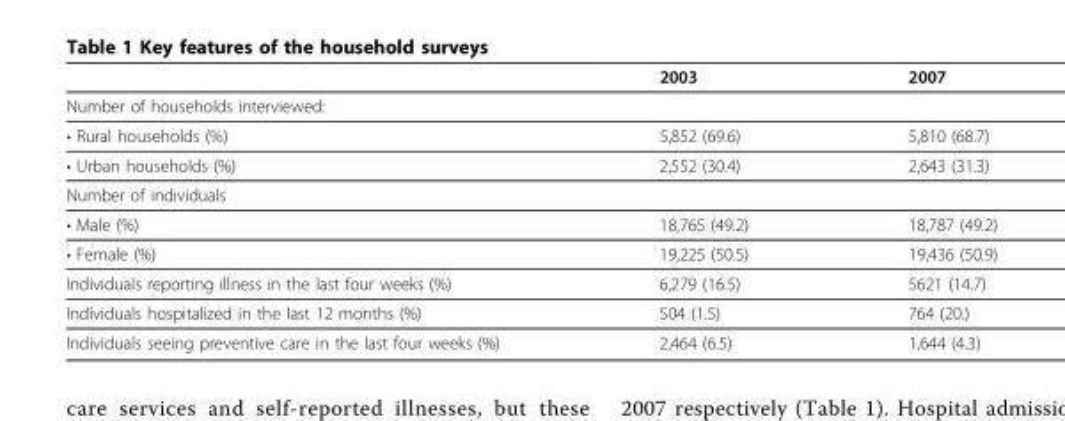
<table><thead><tr><td></td><td>2003</td><td>2007</td></tr></thead><tbody><tr><td colspan="3">Number of households interviewed:</td></tr><tr><td>• Rural households (%)</td><td>5,852 (69.6)</td><td>5,810 (68.7)</td></tr><tr><td>• Urban households (%)</td><td>2,552 (30.4)</td><td>2,643 (31.3)</td></tr><tr><td colspan="3">Number of individuals</td></tr><tr><td>• Male (%)</td><td>18,765 (49.2)</td><td>18,787 (49.2)</td></tr><tr><td>• Female (%)</td><td>19,225 (50.5)</td><td>19,436 (50.9)</td></tr><tr><td>Individuals reporting illness in the last four weeks (%)</td><td>6,279 (16.5)</td><td>5621 (14.7)</td></tr><tr><td>Individuals hospitalized in the last 12 months (%)</td><td>504 (1.5)</td><td>764 (20.)</td></tr><tr><td>Individuals seeing preventive care in the last four weeks (%)</td><td>2,464 (6.5)</td><td>1,644 (4.3)</td></tr></tbody></table>